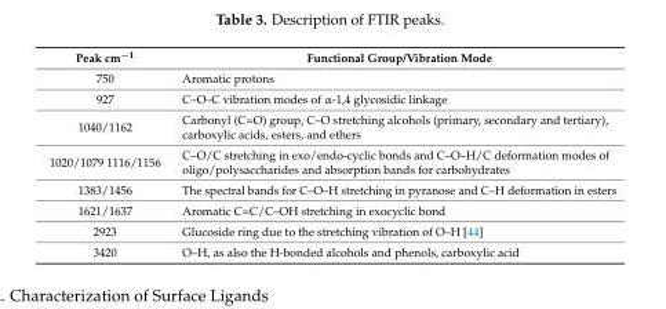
<table><thead><tr><td>Peak cm<sup>−1</sup></td><td>Functional Group/Vibration Mode</td></tr></thead><tbody><tr><td>750</td><td>Aromatic protons</td></tr><tr><td>927</td><td>C–O–C vibration modes of α-1,4 glycosidic linkage</td></tr><tr><td>1040/1162</td><td>Carbonyl (C=O) group, C–O stretching alcohols (primary, secondary and tertiary), carboxylic acids, esters, and ethers</td></tr><tr><td>1020/1079 1116/1156</td><td>C–O/C stretching in exo/endo-cyclic bonds and C–O–H/C deformation modes of oligo/polysaccharides and absorption bands for carbohydrates</td></tr><tr><td>1383/1456</td><td>The spectral bands for C–O–H stretching in pyranose and C–H deformation in esters</td></tr><tr><td>1621/1637</td><td>Aromatic C=C/C–OH stretching in exocyclic bond</td></tr><tr><td>2923</td><td>Glucoside ring due to the stretching vibration of O–H [44]</td></tr><tr><td>3420</td><td>O–H, as also the H-bonded alcohols and phenols, carboxylic acid</td></tr></tbody></table>